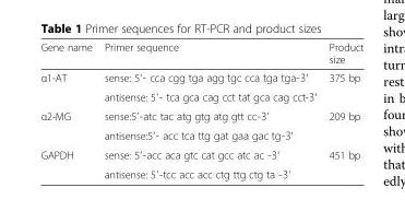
<table><thead><tr><td>Gene name</td><td>Primer sequence</td><td>Product size</td></tr></thead><tbody><tr><td rowspan="2">α1-AT</td><td>sense: 5′- cca cgg tga agg tgc cca tga tga-3′</td><td rowspan="2">375 bp</td></tr><tr><td>antisense: 5′- tca gca cag cct tat gca cag cct-3′</td></tr><tr><td rowspan="2">α2-MG</td><td>sense:5′-atc tac atg gtg atg gtt cc-3′</td><td rowspan="2">209 bp</td></tr><tr><td>antisense:5′- acc tca ttg gat gaa gac tg-3′</td></tr><tr><td rowspan="2">GAPDH</td><td>sense: 5′-acc aca gtc cat gcc atc ac -3′</td><td rowspan="2">451 bp</td></tr><tr><td>antisense: 5′-tcc acc acc ctg ttg ctg ta -3’</td></tr></tbody></table>